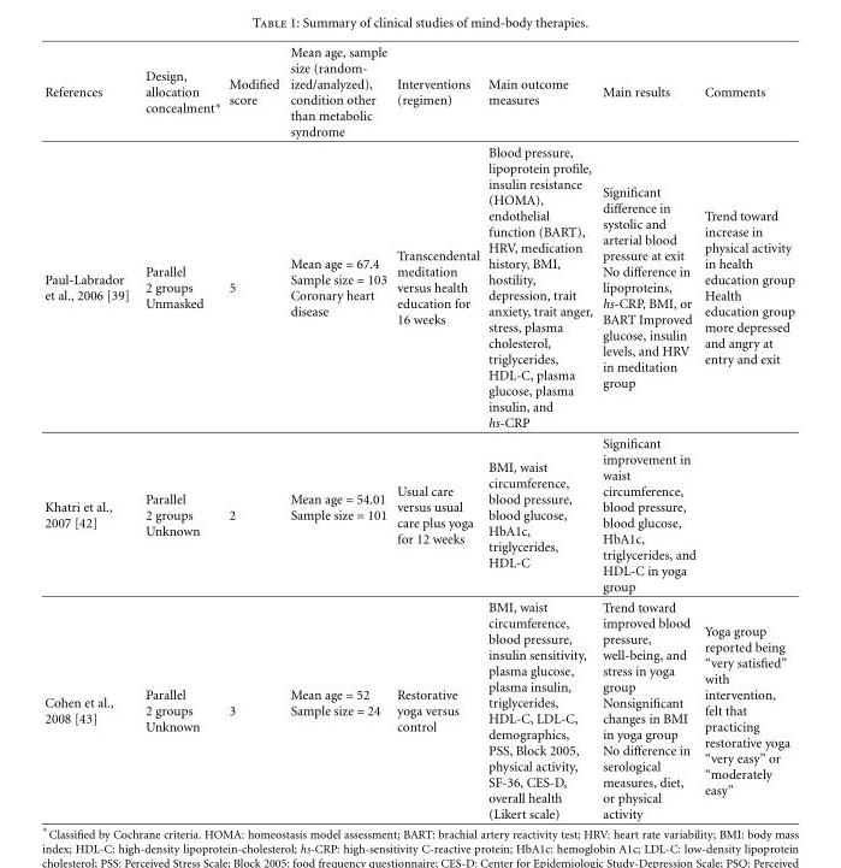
<table><thead><tr><td>References</td><td>Design, allocation concealment∗</td><td>Modified score</td><td>Mean age, sample size (random- ized/analyzed), condition other than metabolic syndrome</td><td>Interventions (regimen)</td><td>Main outcome measures</td><td>Main results</td><td>Comments</td></tr></thead><tbody><tr><td>Paul-Labrador et al., 2006 [39]</td><td>Parallel 2 groups Unmasked</td><td>5</td><td>Mean age = 67.4 Sample size = 103 Coronary heart disease</td><td>Transcendental meditation versus health education for 16 weeks</td><td>Blood pressure, lipoprotein profile, insulin resistance (HOMA), endothelial function (BART), HRV, medication history, BMI, hostility, depression, trait anxiety, trait anger, stress, plasma cholesterol, triglycerides, HDL-C, plasma glucose, plasma insulin, and hs-CRP</td><td>Significant difference in systolic and arterial blood pressure at exit No difference in lipoproteins, hs-CRP, BMI, or BART Improved glucose, insulin levels, and HRV in meditation group</td><td>Trend toward increase in physical activity in health education group Health education group more depressed and angry at entry and exit</td></tr><tr><td>Khatri et al., 2007 [42]</td><td>Parallel 2 groups Unknown</td><td>2</td><td>Mean age = 54.01 Sample size = 101</td><td>Usual care versus usual care plus yoga for 12 weeks</td><td>BMI, waist circumference, blood pressure, blood glucose, HbA1c, triglycerides, HDL-C</td><td>Significant improvement in waist circumference, blood pressure, blood glucose, HbA1c, triglycerides, and HDL-C in yoga group</td><td></td></tr><tr><td>Cohen et al., 2008 [43]</td><td>Parallel 2 groups Unknown</td><td>3</td><td>Mean age = 52 Sample size = 24</td><td>Restorative yoga versus control</td><td>BMI, waist circumference, blood pressure, insulin sensitivity, plasma glucose, plasma insulin, triglycerides, HDL-C, LDL-C, demographics, PSS, Block 2005, physical activity, SF-36, CES-D, overall health (Likert scale)</td><td>Trend toward improved blood pressure, well-being, and stress in yoga group Nonsignificant changes in BMI in yoga group No difference in serological measures, diet, or physical activity</td><td>Yoga group reported being “very satisfied” with intervention, felt that practicing restorative yoga “very easy” or “moderately easy”</td></tr></tbody></table>